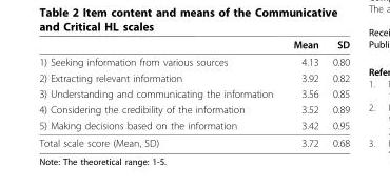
<table><thead><tr><td></td><td>Mean</td><td>SD</td></tr></thead><tbody><tr><td>1) Seeking information from various sources</td><td>4.13</td><td>0.80</td></tr><tr><td>2) Extracting relevant information</td><td>3.92</td><td>0.82</td></tr><tr><td>3) Understanding and communicating the information</td><td>3.56</td><td>0.85</td></tr><tr><td>4) Considering the credibility of the information</td><td>3.52</td><td>0.89</td></tr><tr><td>5) Making decisions based on the information</td><td>3.42</td><td>0.95</td></tr><tr><td>Total scale score (Mean, SD)</td><td>3.72</td><td>0.68</td></tr></tbody></table>